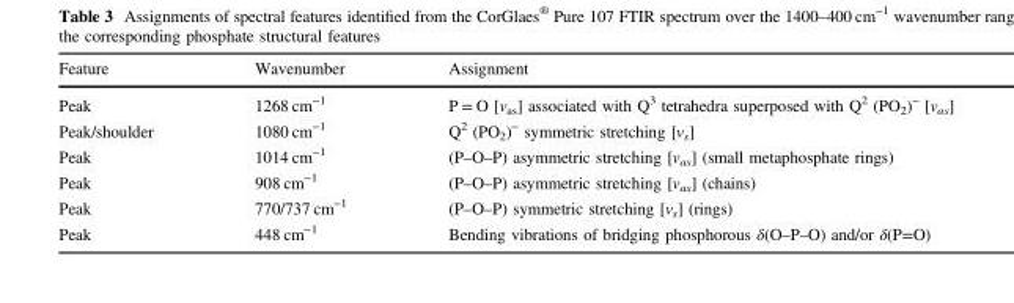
<table><thead><tr><td>Feature</td><td>Wavenumber</td><td>Assignment</td></tr></thead><tbody><tr><td>Peak</td><td>1268 cm<sup>−1</sup></td><td>P = O [v<sub>as</sub>] associated with Q<sup>3</sup> tetrahedra superposed with Q<sup>2</sup> (PO<sub>2</sub>)<sup>−</sup> [v<sub>as</sub>]</td></tr><tr><td>Peak/shoulder</td><td>1080 cm<sup>−1</sup></td><td>Q<sup>2</sup> (PO<sub>2</sub>)<sup>−</sup> symmetric stretching [v<sub>s</sub>]</td></tr><tr><td>Peak</td><td>1014 cm<sup>−1</sup></td><td>(P–O–P) asymmetric stretching [v<sub>as</sub>] (small metaphosphate rings)</td></tr><tr><td>Peak</td><td>908 cm<sup>−1</sup></td><td>(P–O–P) asymmetric stretching [v<sub>as</sub>] (chains)</td></tr><tr><td>Peak</td><td>770/737 cm<sup>−1</sup></td><td>(P–O–P) symmetric stretching [v<sub>s</sub>] (rings)</td></tr><tr><td>Peak</td><td>448 cm<sup>−1</sup></td><td>Bending vibrations of bridging phosphorous δ(O–P–O) and/or δ(P=O)</td></tr></tbody></table>